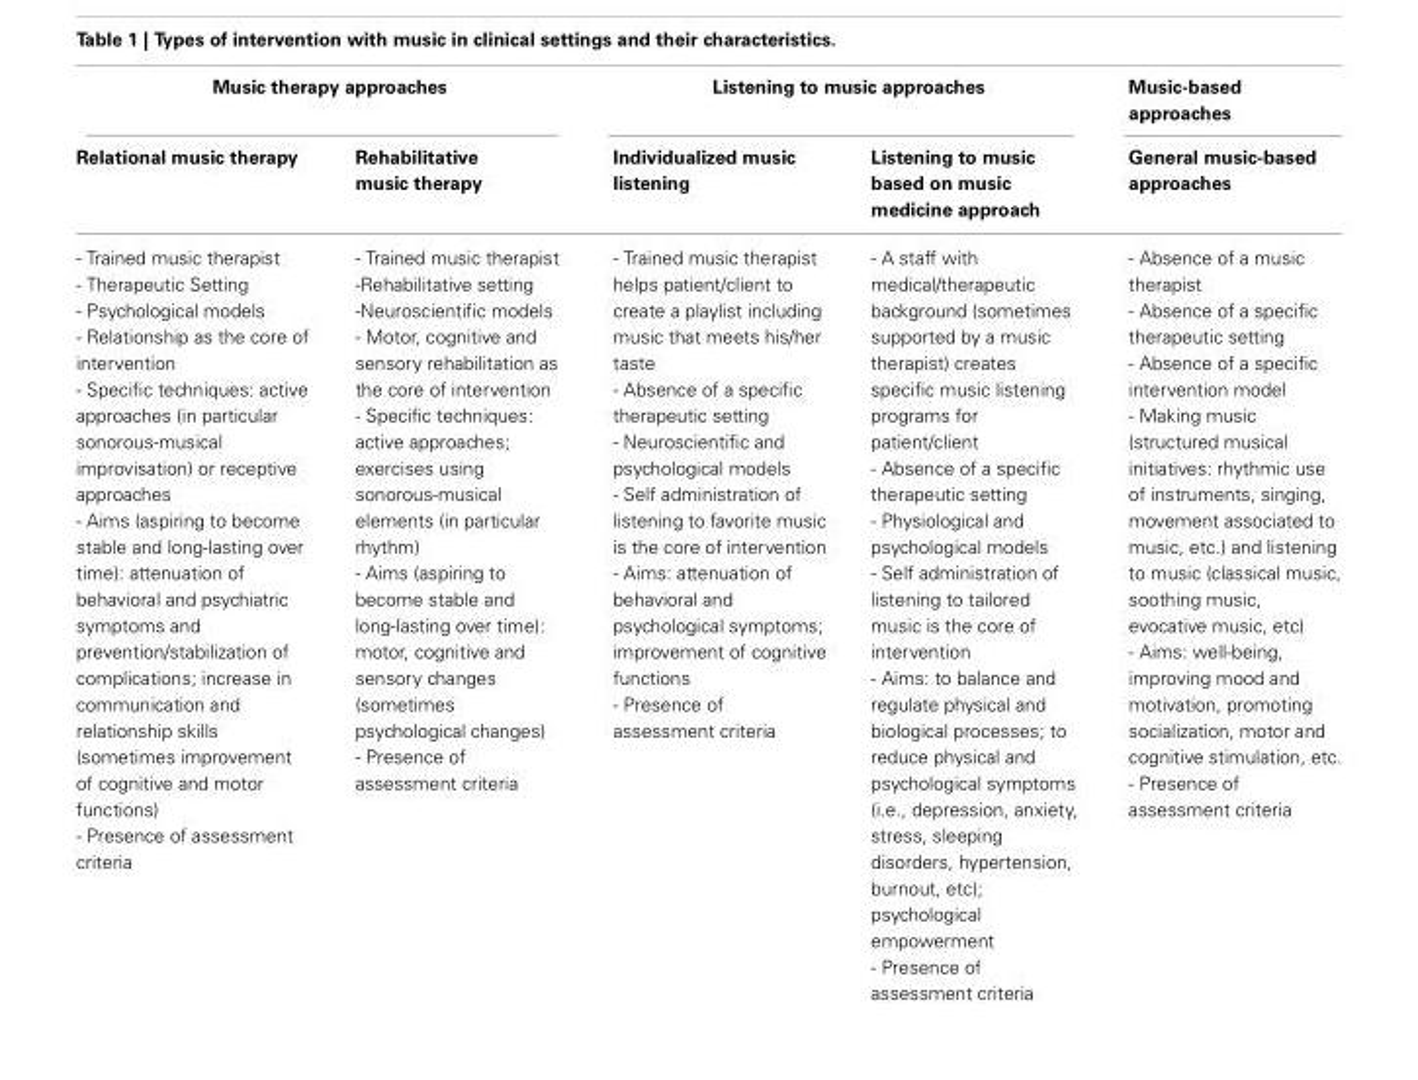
<table><thead><tr><td colspan="2">Music therapy approaches</td><td colspan="2">Listening to music approaches</td><td rowspan="2">Music-based approaches General music-based approaches</td></tr><tr><td>Relational music therapy</td><td>Rehabilitative music therapy</td><td>Individualized music listening</td><td>Listening to music based on music medicine approach</td></tr></thead><tbody><tr><td>- Trained music therapist - Therapeutic Setting - Psychological models - Relationship as the core of intervention - Specific techniques: active approaches (in particular sonorous-musical improvisation) or receptive approaches - Aims (aspiring to become stable and long-lasting over time): attenuation of behavioral and psychiatric symptoms and prevention/stabilization of complications; increase in communication and relationship skills (sometimes improvement of cognitive and motor functions) - Presence of assessment criteria</td><td>- Trained music therapist -Rehabilitative setting -Neuroscientific models - Motor, cognitive and sensory rehabilitation as the core of intervention - Specific techniques: active approaches; exercises using sonorous-musical elements (in particular rhythm) - Aims (aspiring to become stable and long-lasting over time): motor, cognitive and sensory changes (sometimes psychological changes) - Presence of assessment criteria</td><td>- Trained music therapist helps patient/client to create a playlist including music that meets his/her taste - Absence of a specific therapeutic setting - Neuroscientific and psychological models - Self administration of listening to favorite music is the core of intervention - Aims: attenuation of behavioral and psychological symptoms; improvement of cognitive functions - Presence of assessment criteria</td><td>- A staff with medical/therapeutic background (sometimes supported by a music therapist) creates specific music listening programs for patient/client - Absence of a specific therapeutic setting - Physiological and psychological models - Self administration of listening to tailored music is the core of intervention - Aims: to balance and regulate physical and biological processes; to reduce physical and psychological symptoms (i.e., depression, anxiety, stress, sleeping disorders, hypertension, burnout, etc); psychological empowerment - Presence of assessment criteria</td><td>- Absence of a music therapist - Absence of a specific therapeutic setting - Absence of a specific intervention model - Making music (structured musical initiatives: rhythmic use of instruments, singing, movement associated to music, etc.) and listening to music (classical music, soothing music, evocative music, etc) - Aims: well-being, improving mood and motivation, promoting socialization, motor and cognitive stimulation, etc. - Presence of assessment criteria</td></tr></tbody></table>